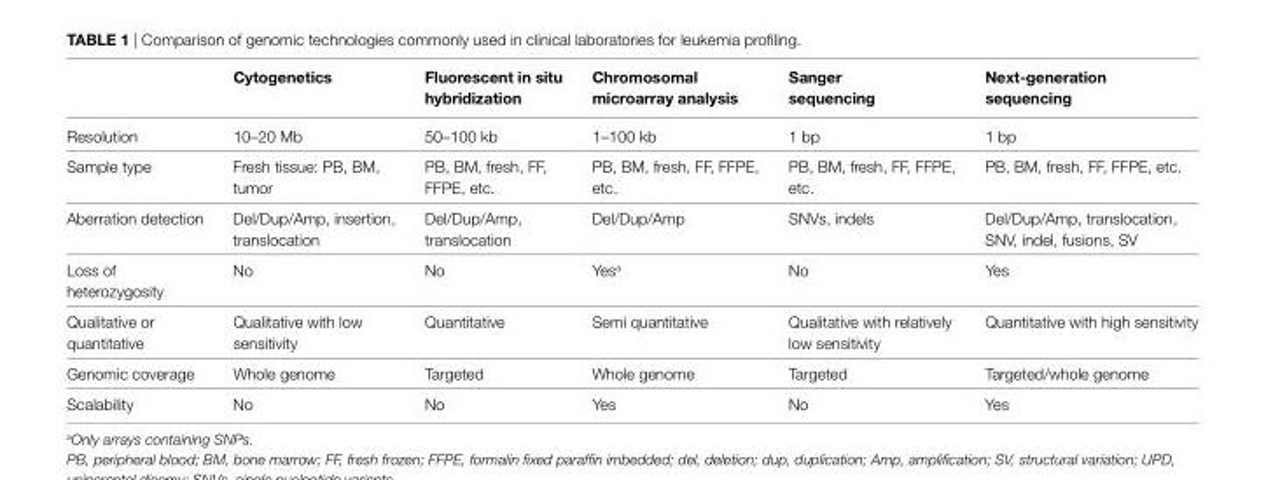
<table><thead><tr><td></td><td>cytogenetics</td><td>Fluorescent in situ hybridization</td><td>chromosomal microarray analysis</td><td>sanger sequencing</td><td>Next-generation sequencing</td></tr></thead><tbody><tr><td>Resolution</td><td>10–20 Mb</td><td>50–100 kb</td><td>1–100 kb</td><td>1 bp</td><td>1 bp</td></tr><tr><td>Sample type</td><td>Fresh tissue: PB, BM, tumor</td><td>PB, BM, fresh, FF, FFPE, etc.</td><td>PB, BM, fresh, FF, FFPE, etc.</td><td>PB, BM, fresh, FF, FFPE, etc.</td><td>PB, BM, fresh, FF, FFPE, etc.</td></tr><tr><td>Aberration detection</td><td>Del/Dup/Amp, insertion, translocation</td><td>Del/Dup/Amp, translocation</td><td>Del/Dup/Amp</td><td>SNVs, indels</td><td>Del/Dup/Amp, translocation, SNV, indel, fusions, SV</td></tr><tr><td>Loss of heterozygosity</td><td>No</td><td>No</td><td>Yes<sup>a</sup></td><td>No</td><td>Yes</td></tr><tr><td>Qualitative or quantitative</td><td>Qualitative with low sensitivity</td><td>Quantitative</td><td>Semi quantitative</td><td>Qualitative with relatively low sensitivity</td><td>Quantitative with high sensitivity</td></tr><tr><td>Genomic coverage</td><td>Whole genome</td><td>Targeted</td><td>Whole genome</td><td>Targeted</td><td>Targeted/whole genome</td></tr><tr><td>Scalability</td><td>No</td><td>No</td><td>Yes</td><td>No</td><td>Yes</td></tr></tbody></table>